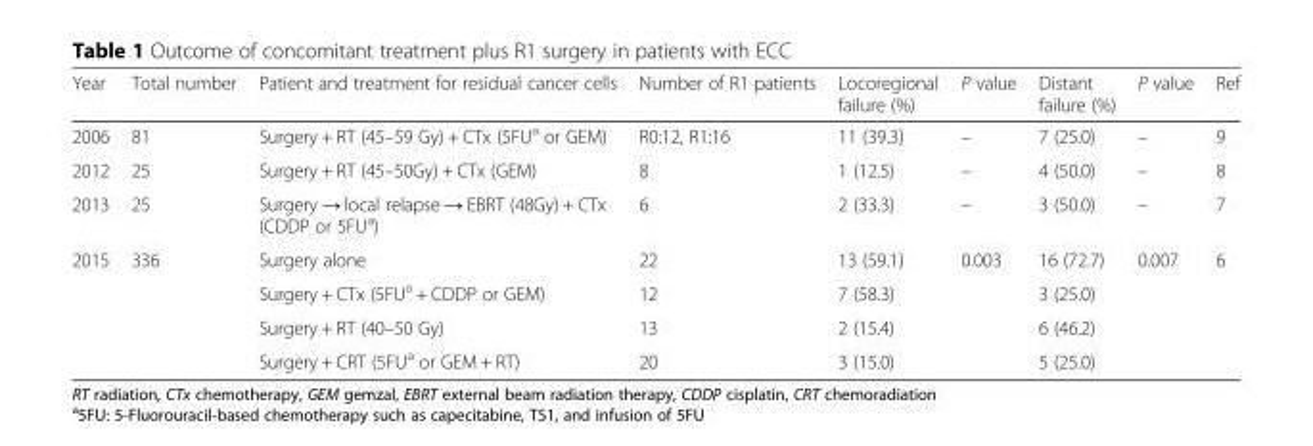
<table><thead><tr><td>Year</td><td>Total number</td><td>Patient and treatment for residual cancer cells</td><td>Number of R1 patients</td><td>Locoregional failure (%)</td><td>P value</td><td>Distant failure (%)</td><td>P value</td><td>Ref</td></tr></thead><tbody><tr><td>2006</td><td>81</td><td>Surgery + RT (45–59 Gy) + CTx (5FU<sup>a</sup> or GEM)</td><td>R0:12, R1:16</td><td>11 (39.3)</td><td>–</td><td>7 (25.0)</td><td>–</td><td>9</td></tr><tr><td>2012</td><td>25</td><td>Surgery + RT (45–50Gy) + CTx (GEM)</td><td>8</td><td>1 (12.5)</td><td>–</td><td>4 (50.0)</td><td>–</td><td>8</td></tr><tr><td>2013</td><td>25</td><td>Surgery → local relapse → EBRT (48Gy) + CTx (CDDP or 5FU<sup>a</sup>)</td><td>6</td><td>2 (33.3)</td><td>–</td><td>3 (50.0)</td><td>–</td><td>7</td></tr><tr><td rowspan="4">2015</td><td>336</td><td>Surgery alone</td><td>22</td><td>13 (59.1)</td><td>0.003</td><td>16 (72.7)</td><td>0.007</td><td>6</td></tr><tr><td></td><td>Surgery + CTx (5FU<sup>a</sup> + CDDP or GEM)</td><td>12</td><td>7 (58.3)</td><td></td><td>3 (25.0)</td><td></td><td></td></tr><tr><td></td><td>Surgery + RT (40–50 Gy)</td><td>13</td><td>2 (15.4)</td><td></td><td>6 (46.2)</td><td></td><td></td></tr><tr><td></td><td>Surgery + CRT (5FU<sup>a</sup> or GEM + RT)</td><td>20</td><td>3 (15.0)</td><td></td><td>5 (25.0)</td><td></td><td></td></tr></tbody></table>